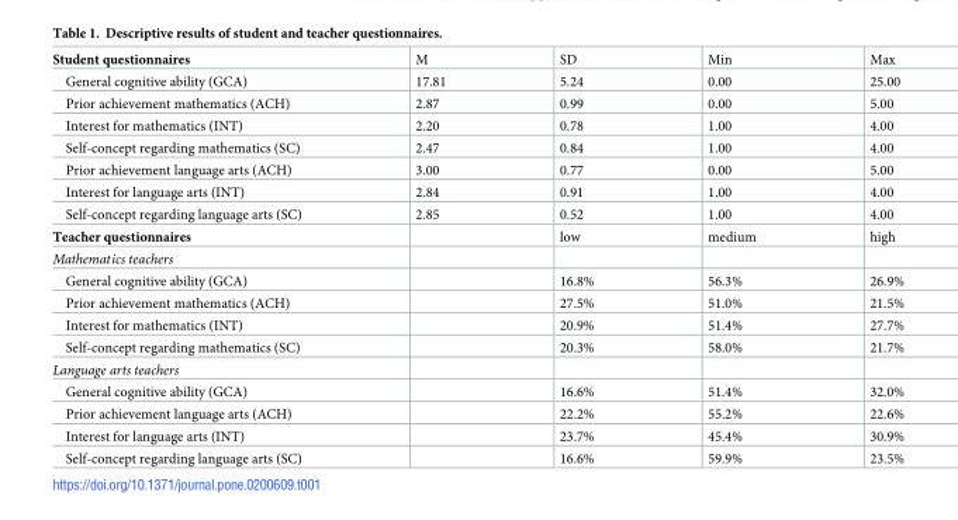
<table><tbody><tr><td>Student questionnaires</td><td>M</td><td>SD</td><td>Min</td><td>Max</td></tr><tr><td>General cognitive ability (GCA)</td><td>17.81</td><td>5.24</td><td>0.00</td><td>25.00</td></tr><tr><td>Prior achievement mathematics (ACH)</td><td>2.87</td><td>0.99</td><td>0.00</td><td>5.00</td></tr><tr><td>Interest for mathematics (INT)</td><td>2.20</td><td>0.78</td><td>1.00</td><td>4.00</td></tr><tr><td>Self-concept regarding mathematics (SC)</td><td>2.47</td><td>0.84</td><td>1.00</td><td>4.00</td></tr><tr><td>Prior achievement language arts (ACH)</td><td>3.00</td><td>0.77</td><td>0.00</td><td>5.00</td></tr><tr><td>Interest for language arts (INT)</td><td>2.84</td><td>0.91</td><td>1.00</td><td>4.00</td></tr><tr><td>Self-concept regarding language arts (SC)</td><td>2.85</td><td>0.52</td><td>1.00</td><td>4.00</td></tr><tr><td>Teacher questionnaires</td><td></td><td>low</td><td>medium</td><td>high</td></tr><tr><td colspan="5">Mathematics teachers</td></tr><tr><td>General cognitive ability (GCA)</td><td></td><td>16.8%</td><td>56.3%</td><td>26.9%</td></tr><tr><td>Prior achievement mathematics (ACH)</td><td></td><td>27.5%</td><td>51.0%</td><td>21.5%</td></tr><tr><td>Interest for mathematics (INT)</td><td></td><td>20.9%</td><td>51.4%</td><td>27.7%</td></tr><tr><td>Self-concept regarding mathematics (SC)</td><td></td><td>20.3%</td><td>58.0%</td><td>21.7%</td></tr><tr><td colspan="5">Language arts teachers</td></tr><tr><td>General cognitive ability (GCA)</td><td></td><td>16.6%</td><td>51.4%</td><td>32.0%</td></tr><tr><td>Prior achievement language arts (ACH)</td><td></td><td>22.2%</td><td>55.2%</td><td>22.6%</td></tr><tr><td>Interest for language arts (INT)</td><td></td><td>23.7%</td><td>45.4%</td><td>30.9%</td></tr><tr><td>Self-concept regarding language arts (SC)</td><td></td><td>16.6%</td><td>59.9%</td><td>23.5%</td></tr></tbody></table>